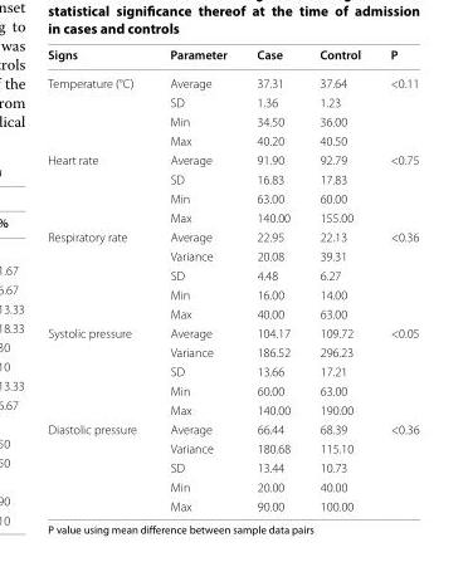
<table><thead><tr><td>Signs</td><td>Parameter</td><td>Case</td><td>Control</td><td>P</td></tr></thead><tbody><tr><td rowspan="4">Temperature (°C)</td><td>Average</td><td>37.31</td><td>37.64</td><td rowspan="4">&lt;0.11</td></tr><tr><td>SD</td><td>1.36</td><td>1.23</td></tr><tr><td>Min</td><td>34.50</td><td>36.00</td></tr><tr><td>Max</td><td>40.20</td><td>40.50</td></tr><tr><td rowspan="4">Heart rate</td><td>Average</td><td>91.90</td><td>92.79</td><td rowspan="4">&lt;0.75</td></tr><tr><td>SD</td><td>16.83</td><td>17.83</td></tr><tr><td>Min</td><td>63.00</td><td>60.00</td></tr><tr><td>Max</td><td>140.00</td><td>155.00</td></tr><tr><td rowspan="5">Respiratory rate</td><td>Average</td><td>22.95</td><td>22.13</td><td rowspan="5">&lt;0.36</td></tr><tr><td>Variance</td><td>20.08</td><td>39.31</td></tr><tr><td>SD</td><td>4.48</td><td>6.27</td></tr><tr><td>Min</td><td>16.00</td><td>14.00</td></tr><tr><td>Max</td><td>40.00</td><td>63.00</td></tr><tr><td rowspan="5">Systolic pressure</td><td>Average</td><td>104.17</td><td>109.72</td><td rowspan="5">&lt;0.05</td></tr><tr><td>Variance</td><td>186.52</td><td>296.23</td></tr><tr><td>SD</td><td>13.66</td><td>17.21</td></tr><tr><td>Min</td><td>60.00</td><td>63.00</td></tr><tr><td>Max</td><td>140.00</td><td>190.00</td></tr><tr><td rowspan="5">Diastolic pressure</td><td>Average</td><td>66.44</td><td>68.39</td><td rowspan="5">&lt;0.36</td></tr><tr><td>Variance</td><td>180.68</td><td>115.10</td></tr><tr><td>SD</td><td>13.44</td><td>10.73</td></tr><tr><td>Min</td><td>20.00</td><td>40.00</td></tr><tr><td>Max</td><td>90.00</td><td>100.00</td></tr></tbody></table>